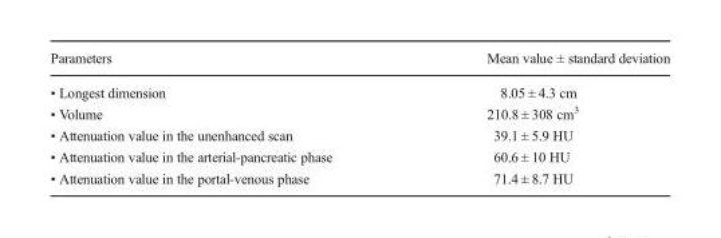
<table><thead><tr><td>Parameters</td><td>Mean value ± standard deviation</td></tr></thead><tbody><tr><td>• Longest dimension</td><td>8.05 ± 4.3 cm</td></tr><tr><td>• Volume</td><td>210.8 ± 308 cm<sup>3</sup></td></tr><tr><td>• Attenuation value in the unenhanced scan</td><td>39.1 ± 5.9 HU</td></tr><tr><td>• Attenuation value in the arterial-pancreatic phase</td><td>60.6 ± 10 HU</td></tr><tr><td>• Attenuation value in the portal-venous phase</td><td>71.4 ± 8.7 HU</td></tr></tbody></table>